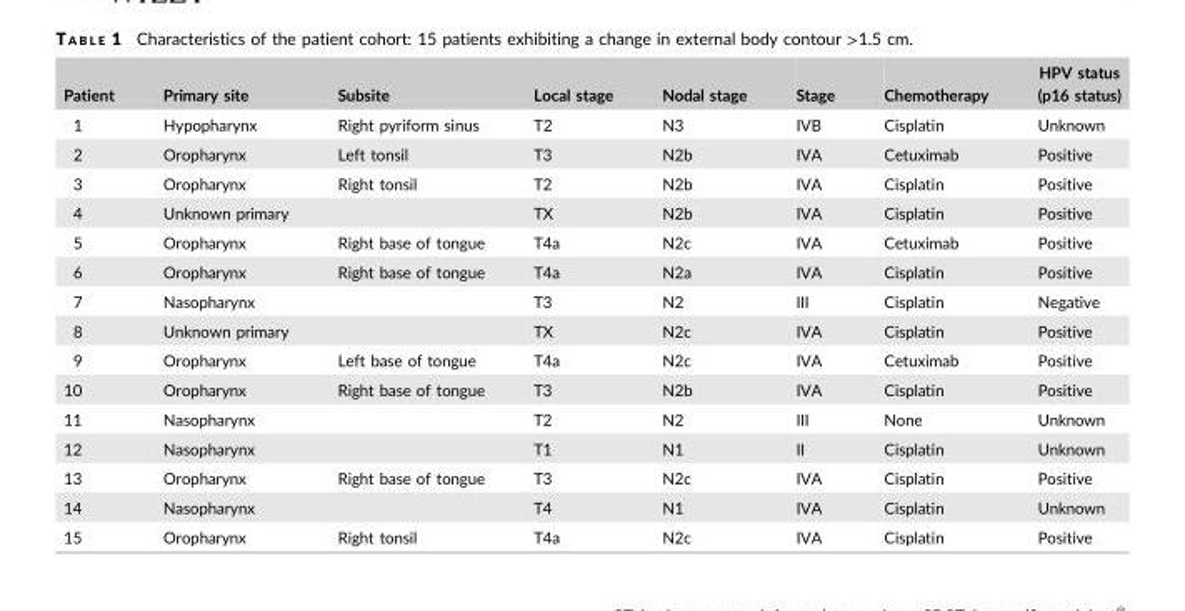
<table><thead><tr><td>Patient</td><td>Primary site</td><td>Subsite</td><td>Local stage</td><td>Nodal stage</td><td>Stage</td><td>Chemotherapy</td><td>HPV status (p16 status)</td></tr></thead><tbody><tr><td>1</td><td>Hypopharynx</td><td>Right pyriform sinus</td><td>T2</td><td>N3</td><td>IVB</td><td>Cisplatin</td><td>Unknown</td></tr><tr><td>2</td><td>Oropharynx</td><td>Left tonsil</td><td>T3</td><td>N2b</td><td>IVA</td><td>Cetuximab</td><td>Positive</td></tr><tr><td>3</td><td>Oropharynx</td><td>Right tonsil</td><td>T2</td><td>N2b</td><td>IVA</td><td>Cisplatin</td><td>Positive</td></tr><tr><td>4</td><td>Unknown primary</td><td></td><td>TX</td><td>N2b</td><td>IVA</td><td>Cisplatin</td><td>Positive</td></tr><tr><td>5</td><td>Oropharynx</td><td>Right base of tongue</td><td>T4a</td><td>N2c</td><td>IVA</td><td>Cetuximab</td><td>Positive</td></tr><tr><td>6</td><td>Oropharynx</td><td>Right base of tongue</td><td>T4a</td><td>N2a</td><td>IVA</td><td>Cisplatin</td><td>Positive</td></tr><tr><td>7</td><td>Nasopharynx</td><td></td><td>T3</td><td>N2</td><td>III</td><td>Cisplatin</td><td>Negative</td></tr><tr><td>8</td><td>Unknown primary</td><td></td><td>TX</td><td>N2c</td><td>IVA</td><td>Cisplatin</td><td>Positive</td></tr><tr><td>9</td><td>Oropharynx</td><td>Left base of tongue</td><td>T4a</td><td>N2c</td><td>IVA</td><td>Cetuximab</td><td>Positive</td></tr><tr><td>10</td><td>Oropharynx</td><td>Right base of tongue</td><td>T3</td><td>N2b</td><td>IVA</td><td>Cisplatin</td><td>Positive</td></tr><tr><td>11</td><td>Nasopharynx</td><td></td><td>T2</td><td>N2</td><td>III</td><td>None</td><td>Unknown</td></tr><tr><td>12</td><td>Nasopharynx</td><td></td><td>T1</td><td>N1</td><td>II</td><td>Cisplatin</td><td>Unknown</td></tr><tr><td>13</td><td>Oropharynx</td><td>Right base of tongue</td><td>T3</td><td>N2c</td><td>IVA</td><td>Cisplatin</td><td>Positive</td></tr><tr><td>14</td><td>Nasopharynx</td><td></td><td>T4</td><td>N1</td><td>IVA</td><td>Cisplatin</td><td>Unknown</td></tr><tr><td>15</td><td>Oropharynx</td><td>Right tonsil</td><td>T4a</td><td>N2c</td><td>IVA</td><td>Cisplatin</td><td>Positive</td></tr></tbody></table>